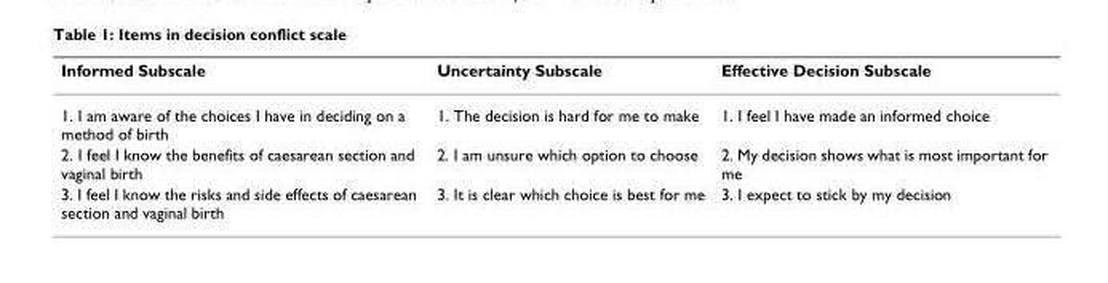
<table><thead><tr><td>Informed Subscale</td><td>Uncertainty Subscale</td><td>Effective Decision Subscale</td></tr></thead><tbody><tr><td>1. I am aware of the choices I have in deciding on a method of birth</td><td>1. The decision is hard for me to make</td><td>1. I feel I have made an informed choice</td></tr><tr><td>2. I feel I know the benefits of caesarean section and vaginal birth</td><td>2. I am unsure which option to choose</td><td>2. My decision shows what is most important for me</td></tr><tr><td>3. I feel I know the risks and side effects of caesarean section and vaginal birth</td><td>3. It is clear which choice is best for me</td><td>3. I expect to stick by my decision</td></tr></tbody></table>